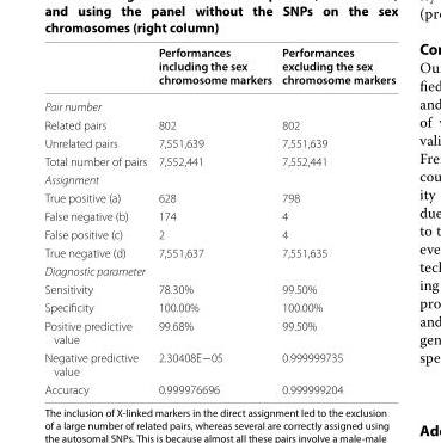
<table><thead><tr><td></td><td>Performances including the sex chromosome markers</td><td>Performances excluding the sex chromosome markers</td></tr></thead><tbody><tr><td colspan="3">Pair number</td></tr><tr><td>Related pairs</td><td>802</td><td>802</td></tr><tr><td>Unrelated pairs</td><td>7,551,639</td><td>7,551,639</td></tr><tr><td>Total number of pairs</td><td>7,552,441</td><td>7,552,441</td></tr><tr><td colspan="3">Assignment</td></tr><tr><td>True positive (a)</td><td>628</td><td>798</td></tr><tr><td>False negative (b)</td><td>174</td><td>4</td></tr><tr><td>False positive (c)</td><td>2</td><td>4</td></tr><tr><td>True negative (d)</td><td>7,551,637</td><td>7,551,635</td></tr><tr><td colspan="3">Diagnostic parameter</td></tr><tr><td>Sensitivity</td><td>78.30%</td><td>99.50%</td></tr><tr><td>Specificity</td><td>100.00%</td><td>100.00%</td></tr><tr><td>Positive predictive value</td><td>99.68%</td><td>99.50%</td></tr><tr><td>Negative predictive value</td><td>2.30408E−05</td><td>0.999999735</td></tr><tr><td>Accuracy</td><td>0.999976696</td><td>0.999999204</td></tr></tbody></table>